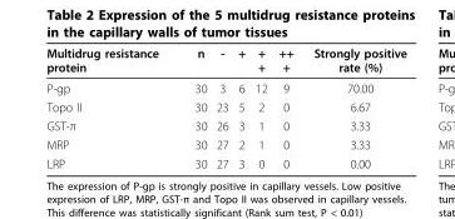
<table><thead><tr><td>Multidrug resistance protein</td><td>n</td><td>-</td><td>+</td><td>+ +</td><td>++ +</td><td>Strongly positive rate (%)</td></tr></thead><tbody><tr><td>P-gp</td><td>30</td><td>3</td><td>6</td><td>12</td><td>9</td><td>70.00</td></tr><tr><td>Topo II</td><td>30</td><td>23</td><td>5</td><td>2</td><td>0</td><td>6.67</td></tr><tr><td>GST-π</td><td>30</td><td>26</td><td>3</td><td>1</td><td>0</td><td>3.33</td></tr><tr><td>MRP</td><td>30</td><td>27</td><td>2</td><td>1</td><td>0</td><td>3.33</td></tr><tr><td>LRP</td><td>30</td><td>27</td><td>3</td><td>0</td><td>0</td><td>0.00</td></tr></tbody></table>